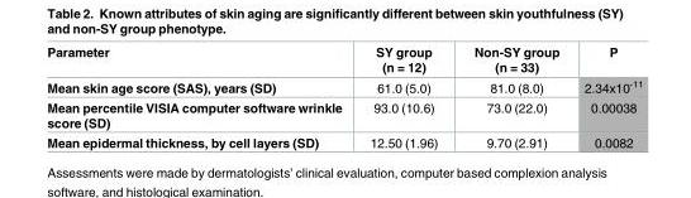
<table><thead><tr><td>Parameter</td><td>SY group (n = 12)</td><td>Non-SY group (n = 33)</td><td>P</td></tr></thead><tbody><tr><td>Mean skin age score (SAS), years (SD)</td><td>61.0 (5.0)</td><td>81.0 (8.0)</td><td>2.34x10<sup>-11</sup></td></tr><tr><td>Mean percentile VISIA computer software wrinkle score (SD)</td><td>93.0 (10.6)</td><td>73.0 (22.0)</td><td>0.00038</td></tr><tr><td>Mean epidermal thickness, by cell layers (SD)</td><td>12.50 (1.96)</td><td>9.70 (2.91)</td><td>0.0082</td></tr></tbody></table>